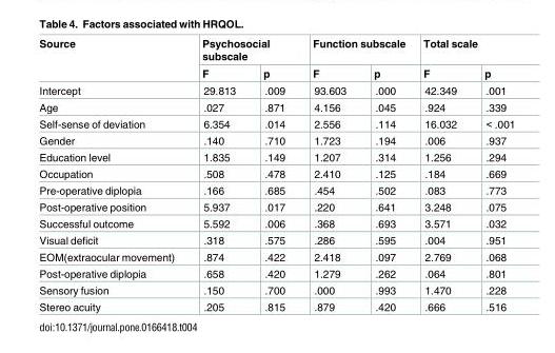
<table><thead><tr><td rowspan="2">Source</td><td colspan="2">Psychosocial subscale</td><td colspan="2">Function subscale</td><td colspan="2">Total scale</td></tr><tr><td>F</td><td>p</td><td>F</td><td>p</td><td>F</td><td>p</td></tr></thead><tbody><tr><td>Intercept</td><td>29.813</td><td>.009</td><td>93.603</td><td>.000</td><td>42.349</td><td>.001</td></tr><tr><td>Age</td><td>.027</td><td>.871</td><td>4.156</td><td>.045</td><td>.924</td><td>.339</td></tr><tr><td>Self-sense of deviation</td><td>6.354</td><td>.014</td><td>2.556</td><td>.114</td><td>16.032</td><td>&lt; .001</td></tr><tr><td>Gender</td><td>.140</td><td>.710</td><td>1.723</td><td>.194</td><td>.006</td><td>.937</td></tr><tr><td>Education level</td><td>1.835</td><td>.149</td><td>1.207</td><td>.314</td><td>1.256</td><td>.294</td></tr><tr><td>Occupation</td><td>.508</td><td>.478</td><td>2.410</td><td>.125</td><td>.184</td><td>.669</td></tr><tr><td>Pre-operative diplopia</td><td>.166</td><td>.685</td><td>.454</td><td>.502</td><td>.083</td><td>.773</td></tr><tr><td>Post-operative position</td><td>5.937</td><td>.017</td><td>.220</td><td>.641</td><td>3.248</td><td>.075</td></tr><tr><td>Successful outcome</td><td>5.592</td><td>.006</td><td>.368</td><td>.693</td><td>3.571</td><td>.032</td></tr><tr><td>Visual deficit</td><td>.318</td><td>.575</td><td>.286</td><td>.595</td><td>.004</td><td>.951</td></tr><tr><td>EOM(extraocular movement)</td><td>.874</td><td>.422</td><td>2.418</td><td>.097</td><td>2.769</td><td>.068</td></tr><tr><td>Post-operative diplopia</td><td>.658</td><td>.420</td><td>1.279</td><td>.262</td><td>.064</td><td>.801</td></tr><tr><td>Sensory fusion</td><td>.150</td><td>.700</td><td>.000</td><td>.993</td><td>1.470</td><td>.228</td></tr><tr><td>Stereo acuity</td><td>.205</td><td>.815</td><td>.879</td><td>.420</td><td>.666</td><td>.516</td></tr></tbody></table>